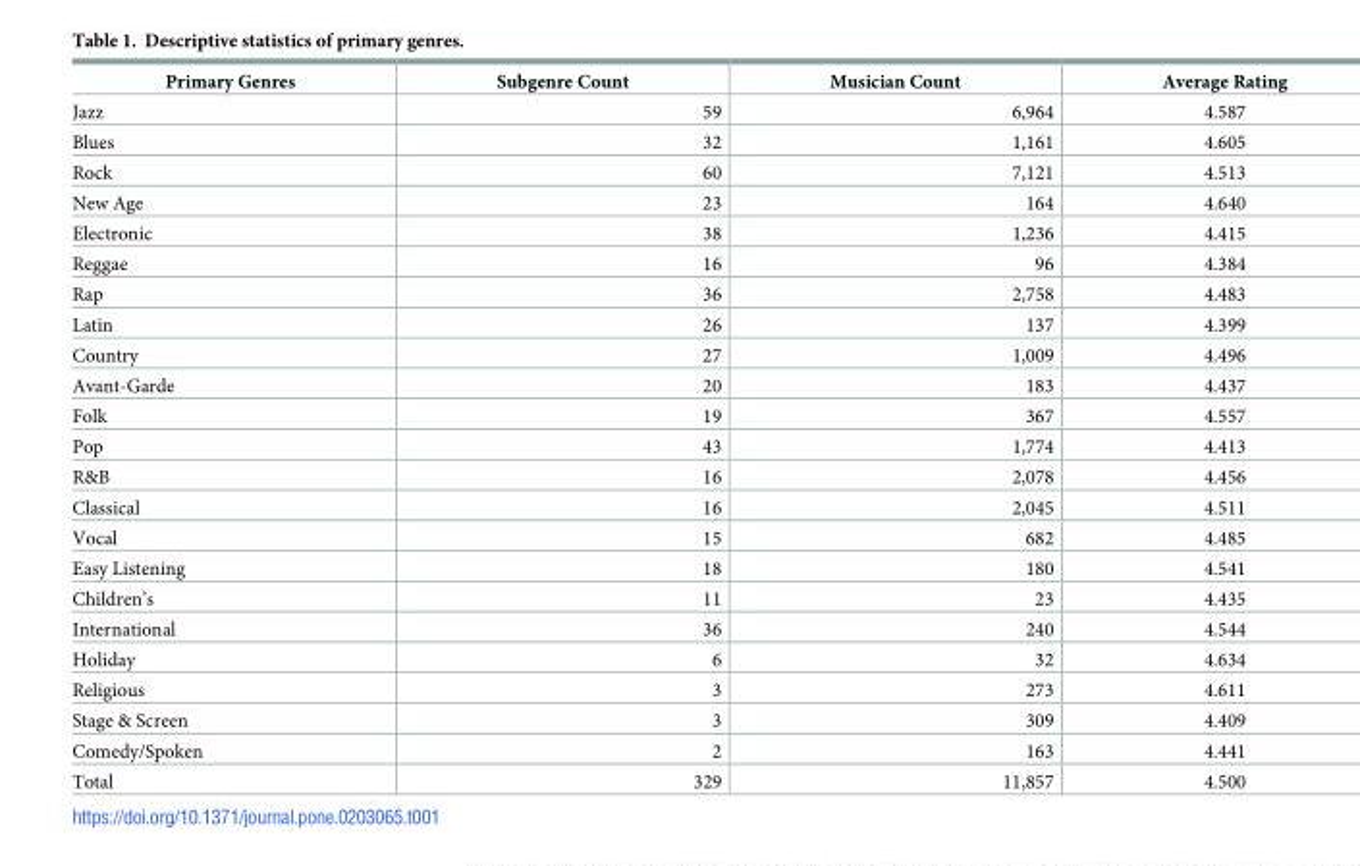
<table><thead><tr><td>Primary Genres</td><td>Subgenre Count</td><td>Musician Count</td><td>Average Rating</td></tr></thead><tbody><tr><td>Jazz</td><td>59</td><td>6,964</td><td>4.587</td></tr><tr><td>Blues</td><td>32</td><td>1,161</td><td>4.605</td></tr><tr><td>Rock</td><td>60</td><td>7,121</td><td>4.513</td></tr><tr><td>New Age</td><td>23</td><td>164</td><td>4.640</td></tr><tr><td>Electronic</td><td>38</td><td>1,236</td><td>4.415</td></tr><tr><td>Reggae</td><td>16</td><td>96</td><td>4.384</td></tr><tr><td>Rap</td><td>36</td><td>2,758</td><td>4.483</td></tr><tr><td>Latin</td><td>26</td><td>137</td><td>4.399</td></tr><tr><td>Country</td><td>27</td><td>1,009</td><td>4.496</td></tr><tr><td>Avant-Garde</td><td>20</td><td>183</td><td>4.437</td></tr><tr><td>Folk</td><td>19</td><td>367</td><td>4.557</td></tr><tr><td>Pop</td><td>43</td><td>1,774</td><td>4.413</td></tr><tr><td>R&amp;B</td><td>16</td><td>2,078</td><td>4.456</td></tr><tr><td>Classical</td><td>16</td><td>2,045</td><td>4.511</td></tr><tr><td>Vocal</td><td>15</td><td>682</td><td>4.485</td></tr><tr><td>Easy Listening</td><td>18</td><td>180</td><td>4.541</td></tr><tr><td>Children’s</td><td>11</td><td>23</td><td>4.435</td></tr><tr><td>International</td><td>36</td><td>240</td><td>4.544</td></tr><tr><td>Holiday</td><td>6</td><td>32</td><td>4.634</td></tr><tr><td>Religious</td><td>3</td><td>273</td><td>4.611</td></tr><tr><td>Stage &amp; Screen</td><td>3</td><td>309</td><td>4.409</td></tr><tr><td>Comedy/Spoken</td><td>2</td><td>163</td><td>4.441</td></tr><tr><td>Total</td><td>329</td><td>11,857</td><td>4.500</td></tr></tbody></table>